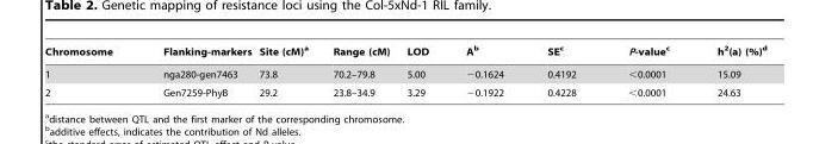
<table><thead><tr><td>Chromosome</td><td>Flanking-markers</td><td>Site (cM)<sup>a</sup></td><td>Range (cM)</td><td>LOD</td><td>A<sup>b</sup></td><td>SE<sup>c</sup></td><td>P-value<sup>c</sup></td><td>h<sup>2</sup>(a) (%)<sup>d</sup></td></tr></thead><tbody><tr><td>1</td><td>nga280-gen7463</td><td>73.8</td><td>70.2–79.8</td><td>5.00</td><td>−0.1624</td><td>0.4192</td><td>&lt;0.0001</td><td>15.09</td></tr><tr><td>2</td><td>Gen7259-PhyB</td><td>29.2</td><td>23.8–34.9</td><td>3.29</td><td>−0.1922</td><td>0.4228</td><td>&lt;0.0001</td><td>24.63</td></tr></tbody></table>